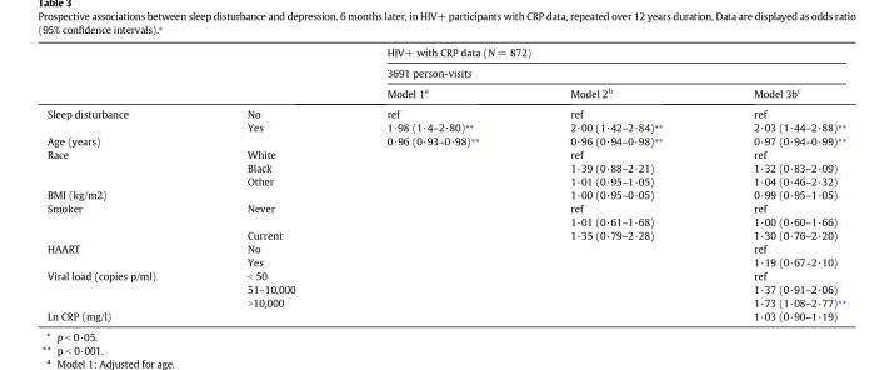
<table><thead><tr><td rowspan="3"></td><td rowspan="3"></td><td rowspan="2" colspan="3">HIV+ with CRP data (N = 872) 3691 person-visits</td></tr><tr></tr><tr><td>Model 1<sup>a</sup></td><td>Model 2<sup>b</sup></td><td>Model 3b<sup>c</sup></td></tr></thead><tbody><tr><td rowspan="2">Sleep disturbance</td><td>No</td><td>ref</td><td>ref</td><td>ref</td></tr><tr><td>Yes</td><td>1·98 (1·4–2·80)⁎⁎</td><td>2·00 (1·42–2·84)⁎⁎</td><td>2·03 (1·44–2·88)⁎⁎</td></tr><tr><td>Age (years)</td><td></td><td>0·96 (0·93–0·98)⁎⁎</td><td>0·96 (0·94–0·98)⁎⁎</td><td>0·97 (0·94–0·99)⁎⁎</td></tr><tr><td rowspan="3">Race</td><td>White</td><td></td><td>ref</td><td>ref</td></tr><tr><td>Black</td><td></td><td>1·39 (0·88–2·21)</td><td>1·32 (0·83–2·09)</td></tr><tr><td>Other</td><td></td><td>1·01 (0·95–1·05)</td><td>1·04 (0·46–2·32)</td></tr><tr><td>BMI (kg/m2)</td><td></td><td></td><td>1·00 (0·95–0·05)</td><td>0·99 (0·95–1·05)</td></tr><tr><td rowspan="3">Smoker</td><td>Never</td><td></td><td>ref</td><td>ref</td></tr><tr><td></td><td></td><td>1·01 (0·61–1·68)</td><td>1·00 (0·60–1·66)</td></tr><tr><td>Current</td><td></td><td>1·35 (0·79–2·28)</td><td>1·30 (0·76–2·20)</td></tr><tr><td rowspan="2">HAART</td><td>No</td><td></td><td></td><td>ref</td></tr><tr><td>Yes</td><td></td><td></td><td>1·19 (0·67–2·10)</td></tr><tr><td rowspan="3">Viral load (copies p/ml)</td><td>&lt; 50</td><td></td><td></td><td>ref</td></tr><tr><td>51–10,000</td><td></td><td></td><td>1·37 (0·91–2·06)</td></tr><tr><td>&gt;10,000</td><td></td><td></td><td>1·73 (1·08–2·77)⁎⁎</td></tr><tr><td>Ln CRP (mg/l)</td><td></td><td></td><td></td><td>1·03 (0·90–1·19)</td></tr></tbody></table>